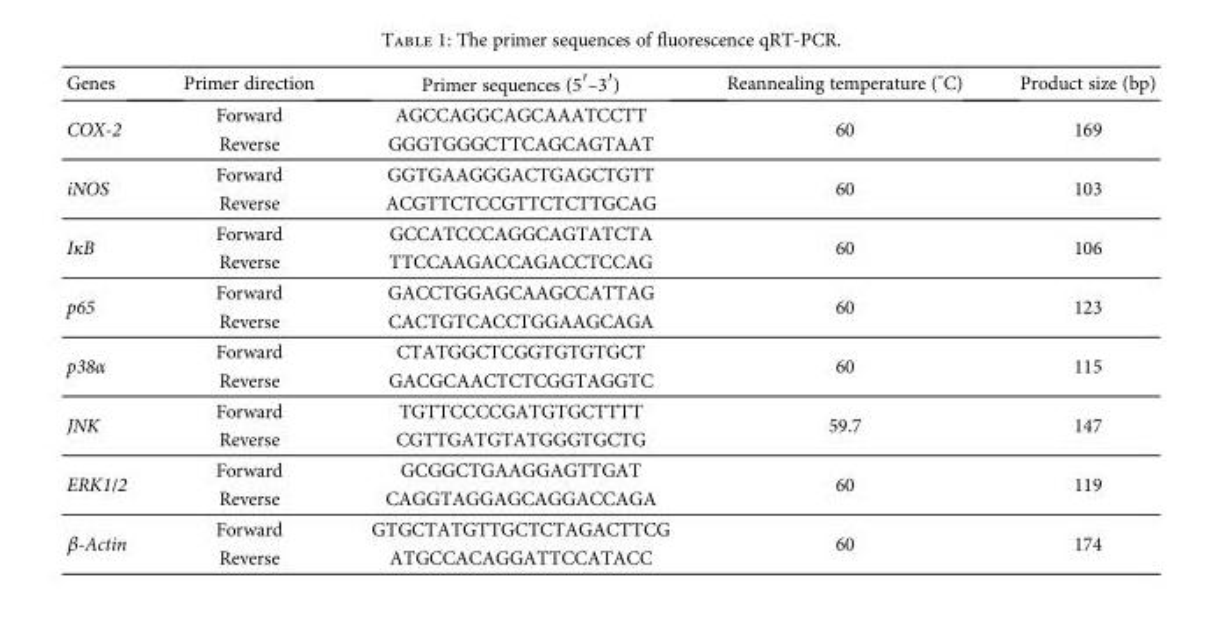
<table><thead><tr><td>Genes</td><td>Primer direction</td><td>Primer sequences (5′–3′)</td><td>Reannealing temperature (°C)</td><td>Product size (bp)</td></tr></thead><tbody><tr><td rowspan="2">COX-2</td><td>Forward</td><td>AGCCAGGCAGCAAATCCTT</td><td rowspan="2">60</td><td rowspan="2">169</td></tr><tr><td>Reverse</td><td>GGGTGGGCTTCAGCAGTAAT</td></tr><tr><td rowspan="2">iNOS</td><td>Forward</td><td>GGTGAAGGGACTGAGCTGTT</td><td rowspan="2">60</td><td rowspan="2">103</td></tr><tr><td>Reverse</td><td>ACGTTCTCCGTTCTCTTGCAG</td></tr><tr><td rowspan="2">IκB</td><td>Forward</td><td>GCCATCCCAGGCAGTATCTA</td><td rowspan="2">60</td><td rowspan="2">106</td></tr><tr><td>Reverse</td><td>TTCCAAGACCAGACCTCCAG</td></tr><tr><td rowspan="2">p65</td><td>Forward</td><td>GACCTGGAGCAAGCCATTAG</td><td rowspan="2">60</td><td rowspan="2">123</td></tr><tr><td>Reverse</td><td>CACTGTCACCTGGAAGCAGA</td></tr><tr><td rowspan="2">p38α</td><td>Forward</td><td>CTATGGCTCGGTGTGTGCT</td><td rowspan="2">60</td><td rowspan="2">115</td></tr><tr><td>Reverse</td><td>GACGCAACTCTCGGTAGGTC</td></tr><tr><td rowspan="2">JNK</td><td>Forward</td><td>TGTTCCCCGATGTGCTTTT</td><td rowspan="2">59.7</td><td rowspan="2">147</td></tr><tr><td>Reverse</td><td>CGTTGATGTATGGGTGCTG</td></tr><tr><td rowspan="2">ERK1/2</td><td>Forward</td><td>GCGGCTGAAGGAGTTGAT</td><td rowspan="2">60</td><td rowspan="2">119</td></tr><tr><td>Reverse</td><td>CAGGTAGGAGCAGGACCAGA</td></tr><tr><td rowspan="2">β-Actin</td><td>Forward</td><td>GTGCTATGTTGCTCTAGACTTCG</td><td rowspan="2">60</td><td rowspan="2">174</td></tr><tr><td>Reverse</td><td>ATGCCACAGGATTCCATACC</td></tr></tbody></table>